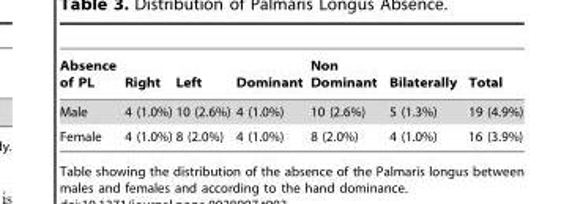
<table><thead><tr><td>Absence of PL</td><td>Right</td><td>Left</td><td>Dominant</td><td>Non Dominant</td><td>Bilaterally</td><td>Total</td></tr></thead><tbody><tr><td>Male</td><td>4 (1.0%)</td><td>10 (2.6%)</td><td>4 (1.0%)</td><td>10 (2.6%)</td><td>5 (1.3%)</td><td>19 (4.9%)</td></tr><tr><td>Female</td><td>4 (1.0%)</td><td>8 (2.0%)</td><td>4 (1.0%)</td><td>8 (2.0%)</td><td>4 (1.0%)</td><td>16 (3.9%)</td></tr></tbody></table>